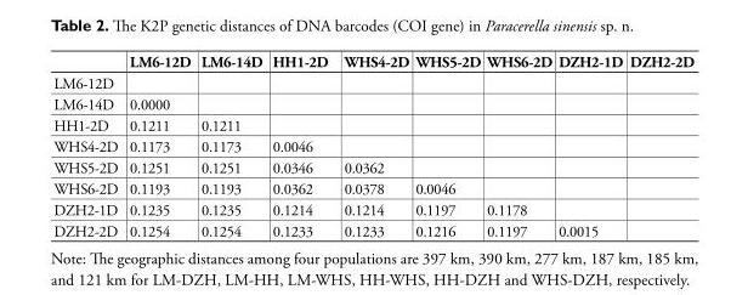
<table><thead><tr><td></td><td>LM6-12D</td><td>LM6-14D</td><td>HH1-2D</td><td>WHS4-2D</td><td>WHS5-2D</td><td>WHS6-2D</td><td>DZH2-1D</td><td>DZH2-2D</td></tr></thead><tbody><tr><td colspan="9">LM6-12D</td></tr><tr><td>LM6-14D</td><td>0.0000</td><td></td><td></td><td></td><td></td><td></td><td></td><td></td></tr><tr><td>HH1-2D</td><td>0.1211</td><td>0.1211</td><td></td><td></td><td></td><td></td><td></td><td></td></tr><tr><td>WHS4-2D</td><td>0.1173</td><td>0.1173</td><td>0.0046</td><td></td><td></td><td></td><td></td><td></td></tr><tr><td>WHS5-2D</td><td>0.1251</td><td>0.1251</td><td>0.0346</td><td>0.0362</td><td></td><td></td><td></td><td></td></tr><tr><td>WHS6-2D</td><td>0.1193</td><td>0.1193</td><td>0.0362</td><td>0.0378</td><td>0.0046</td><td></td><td></td><td></td></tr><tr><td>DZH2-1D</td><td>0.1235</td><td>0.1235</td><td>0.1214</td><td>0.1214</td><td>0.1197</td><td>0.1178</td><td></td><td></td></tr><tr><td>DZH2-2D</td><td>0.1254</td><td>0.1254</td><td>0.1233</td><td>0.1233</td><td>0.1216</td><td>0.1197</td><td>0.0015</td><td></td></tr></tbody></table>